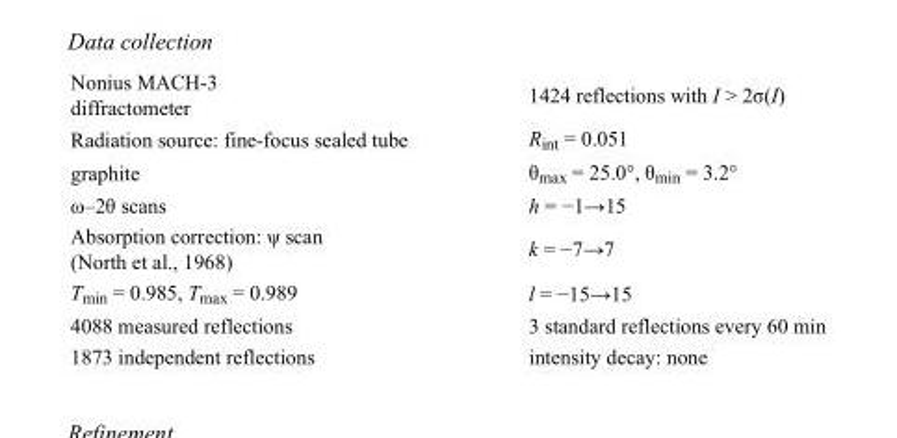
<table><tbody><tr><td>Nonius MACH-3 diffractometer</td><td>1424 reflections with I &gt; 2σ(I)</td></tr><tr><td>Radiation source: fine-focus sealed tube</td><td>R<sub>int</sub> = 0.051</td></tr><tr><td>graphite</td><td>θ<sub>max</sub> = 25.0°, θ<sub>min</sub> = 3.2°</td></tr><tr><td>ω–2θ scans</td><td>h = −1→15</td></tr><tr><td>Absorption correction: ψ scan (North et al., 1968)</td><td>k = −7→7</td></tr><tr><td>T<sub>min</sub> = 0.985, T<sub>max</sub> = 0.989</td><td>l = −15→15</td></tr><tr><td>4088 measured reflections</td><td>3 standard reflections every 60 min</td></tr><tr><td>1873 independent reflections</td><td>intensity decay: none</td></tr></tbody></table>